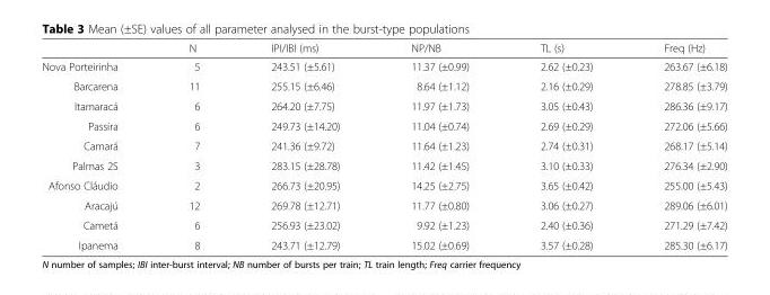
<table><thead><tr><td></td><td>N</td><td>IPI/IBI (ms)</td><td>NP/NB</td><td>TL (s)</td><td>Freq (Hz)</td></tr></thead><tbody><tr><td>Nova Porteirinha</td><td>5</td><td>243.51 (±5.61)</td><td>11.37 (±0.99)</td><td>2.62 (±0.23)</td><td>263.67 (±6.18)</td></tr><tr><td>Barcarena</td><td>11</td><td>255.15 (±6.46)</td><td>8.64 (±1.12)</td><td>2.16 (±0.29)</td><td>278.85 (±3.79)</td></tr><tr><td>Itamaracá</td><td>6</td><td>264.20 (±7.75)</td><td>11.97 (±1.73)</td><td>3.05 (±0.43)</td><td>286.36 (±9.17)</td></tr><tr><td>Passira</td><td>6</td><td>249.73 (±14.20)</td><td>11.04 (±0.74)</td><td>2.69 (±0.29)</td><td>272.06 (±5.66)</td></tr><tr><td>Camará</td><td>7</td><td>241.36 (±9.72)</td><td>11.64 (±1.23)</td><td>2.74 (±0.31)</td><td>268.17 (±5.14)</td></tr><tr><td>Palmas 2S</td><td>3</td><td>283.15 (±28.78)</td><td>11.42 (±1.45)</td><td>3.10 (±0.33)</td><td>276.34 (±2.90)</td></tr><tr><td>Afonso Cláudio</td><td>2</td><td>266.73 (±20.95)</td><td>14.25 (±2.75)</td><td>3.65 (±0.42)</td><td>255.00 (±5.43)</td></tr><tr><td>Aracajú</td><td>12</td><td>269.78 (±12.71)</td><td>11.77 (±0.80)</td><td>3.06 (±0.27)</td><td>289.06 (±6.01)</td></tr><tr><td>Cametá</td><td>6</td><td>256.93 (±23.02)</td><td>9.92 (±1.23)</td><td>2.40 (±0.36)</td><td>271.29 (±7.42)</td></tr><tr><td>Ipanema</td><td>8</td><td>243.71 (±12.79)</td><td>15.02 (±0.69)</td><td>3.57 (±0.28)</td><td>285.30 (±6.17)</td></tr></tbody></table>